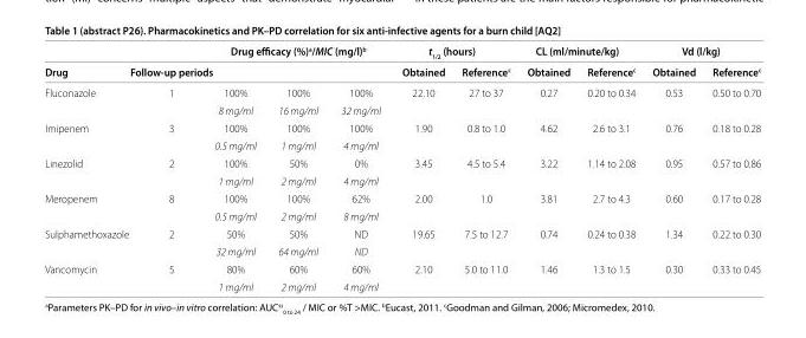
<table><thead><tr><td rowspan="2">Drug</td><td rowspan="2">Follow-up periods</td><td colspan="3">Drug effi cacy (%)<sup>a</sup>/MIC (mg/l)<sup>b</sup></td><td colspan="2">t<sub>1/2</sub> (hours)</td><td colspan="2">CL (ml/minute/kg)</td><td colspan="2">Vd (l/kg)</td></tr><tr><td></td><td></td><td></td><td>Obtained</td><td>Reference<sup>c</sup></td><td>Obtained</td><td>Reference<sup>c</sup></td><td>Obtained</td><td>Reference<sup>c</sup></td></tr></thead><tbody><tr><td rowspan="2">Fluconazole</td><td>1</td><td>100%</td><td>100%</td><td>100%</td><td>22.10</td><td>27 to 37</td><td>0.27</td><td>0.20 to 0.34</td><td>0.53</td><td>0.50 to 0.70</td></tr><tr><td></td><td>8 mg/ml</td><td>16 mg/ml</td><td>32 mg/ml</td><td></td><td></td><td></td><td></td><td></td><td></td></tr><tr><td rowspan="2">Imipenem</td><td>3</td><td>100%</td><td>100%</td><td>100%</td><td>1.90</td><td>0.8 to 1.0</td><td>4.62</td><td>2.6 to 3.1</td><td>0.76</td><td>0.18 to 0.28</td></tr><tr><td></td><td>0.5 mg/ml</td><td>1 mg/ml</td><td>4 mg/ml</td><td></td><td></td><td></td><td></td><td></td><td></td></tr><tr><td rowspan="2">Linezolid</td><td>2</td><td>100%</td><td>50%</td><td>0%</td><td>3.45</td><td>4.5 to 5.4</td><td>3.22</td><td>1.14 to 2.08</td><td>0.95</td><td>0.57 to 0.86</td></tr><tr><td></td><td>1 mg/ml</td><td>2 mg/ml</td><td>4 mg/ml</td><td></td><td></td><td></td><td></td><td></td><td></td></tr><tr><td rowspan="2">Meropenem</td><td>8</td><td>100%</td><td>100%</td><td>62%</td><td>2.00</td><td>1.0</td><td>3.81</td><td>2.7 to 4.3</td><td>0.60</td><td>0.17 to 0.28</td></tr><tr><td></td><td>0.5 mg/ml</td><td>2 mg/ml</td><td>8 mg/ml</td><td></td><td></td><td></td><td></td><td></td><td></td></tr><tr><td rowspan="2">Sulphamethoxazole</td><td>2</td><td>50%</td><td>50%</td><td>ND</td><td>19.65</td><td>7.5 to 12.7</td><td>0.74</td><td>0.24 to 0.38</td><td>1.34</td><td>0.22 to 0.30</td></tr><tr><td></td><td>32 mg/ml</td><td>64 mg/ml</td><td>ND</td><td></td><td></td><td></td><td></td><td></td><td></td></tr><tr><td rowspan="2">Vancomycin</td><td>5</td><td>80%</td><td>60%</td><td>60%</td><td>2.10</td><td>5.0 to 11.0</td><td>1.46</td><td>1.3 to 1.5</td><td>0.30</td><td>0.33 to 0.45</td></tr><tr><td></td><td>1 mg/ml</td><td>2 mg/ml</td><td>4 mg/ml</td><td></td><td></td><td></td><td></td><td></td><td></td></tr></tbody></table>